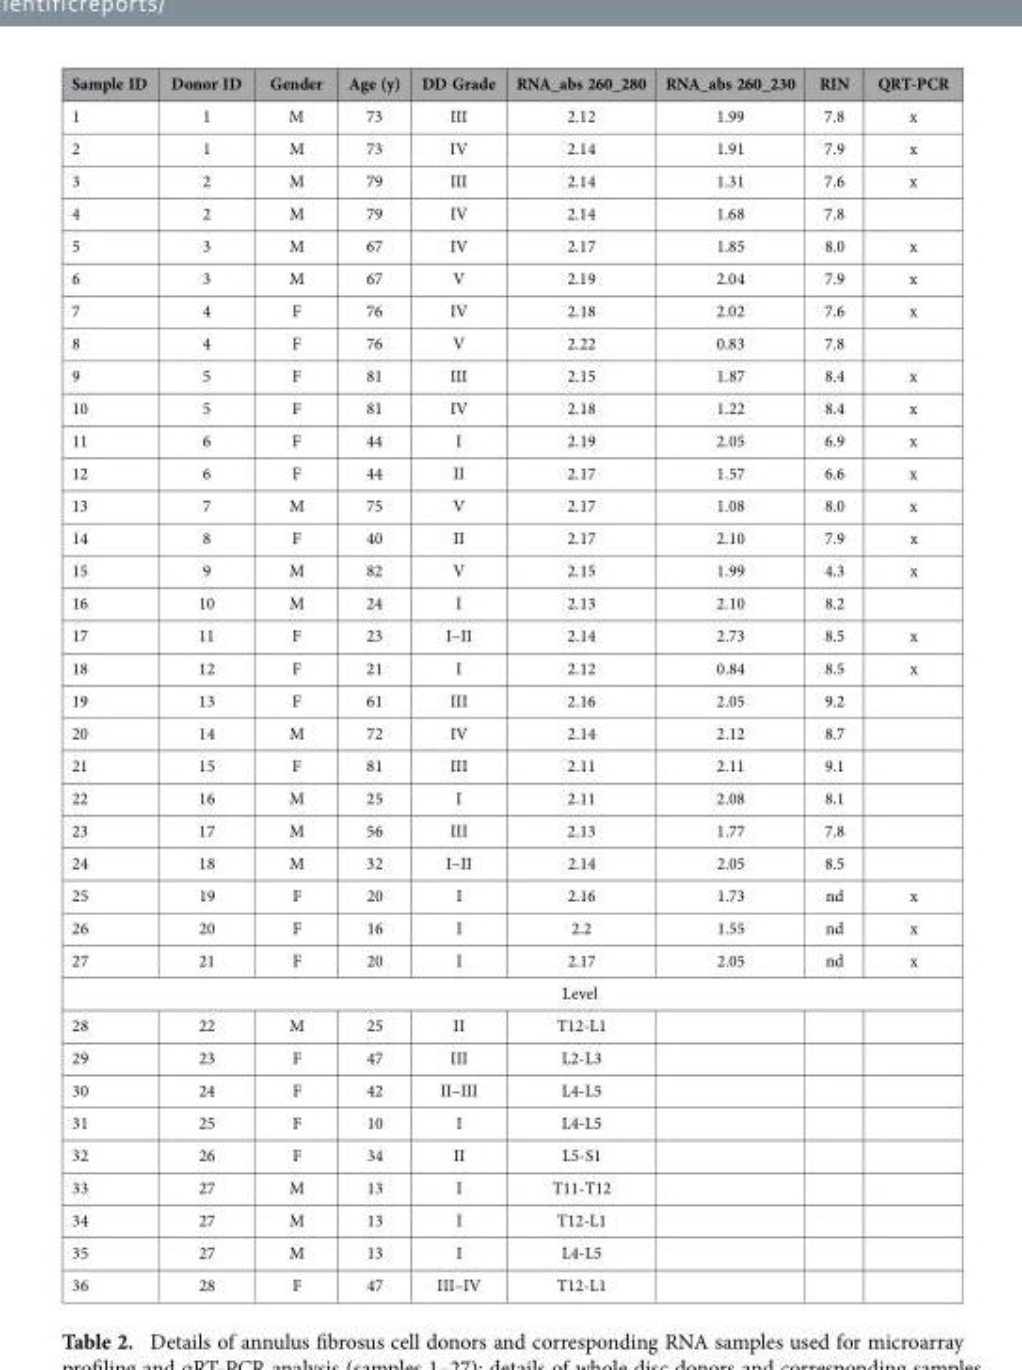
<table><thead><tr><td>Sample ID</td><td>Donor ID</td><td>Gender</td><td>Age (y)</td><td>DD Grade</td><td>RNA_abs 260_280</td><td>RNA_abs 260_230</td><td>RIN</td><td>QRT-PCR</td></tr></thead><tbody><tr><td>1</td><td>1</td><td>M</td><td>73</td><td>III</td><td>2.12</td><td>1.99</td><td>7.8</td><td>x</td></tr><tr><td>2</td><td>1</td><td>M</td><td>73</td><td>IV</td><td>2.14</td><td>1.91</td><td>7.9</td><td>x</td></tr><tr><td>3</td><td>2</td><td>M</td><td>79</td><td>III</td><td>2.14</td><td>1.31</td><td>7.6</td><td>x</td></tr><tr><td>4</td><td>2</td><td>M</td><td>79</td><td>IV</td><td>2.14</td><td>1.68</td><td>7.8</td><td></td></tr><tr><td>5</td><td>3</td><td>M</td><td>67</td><td>IV</td><td>2.17</td><td>1.85</td><td>8.0</td><td>x</td></tr><tr><td>6</td><td>3</td><td>M</td><td>67</td><td>V</td><td>2.19</td><td>2.04</td><td>7.9</td><td>x</td></tr><tr><td>7</td><td>4</td><td>F</td><td>76</td><td>IV</td><td>2.18</td><td>2.02</td><td>7.6</td><td>x</td></tr><tr><td>8</td><td>4</td><td>F</td><td>76</td><td>V</td><td>2.22</td><td>0.83</td><td>7.8</td><td></td></tr><tr><td>9</td><td>5</td><td>F</td><td>81</td><td>III</td><td>2.15</td><td>1.87</td><td>8.4</td><td>x</td></tr><tr><td>10</td><td>5</td><td>F</td><td>81</td><td>IV</td><td>2.18</td><td>1.22</td><td>8.4</td><td>x</td></tr><tr><td>11</td><td>6</td><td>F</td><td>44</td><td>I</td><td>2.19</td><td>2.05</td><td>6.9</td><td>x</td></tr><tr><td>12</td><td>6</td><td>F</td><td>44</td><td>II</td><td>2.17</td><td>1.57</td><td>6.6</td><td>x</td></tr><tr><td>13</td><td>7</td><td>M</td><td>75</td><td>V</td><td>2.17</td><td>1.08</td><td>8.0</td><td>x</td></tr><tr><td>14</td><td>8</td><td>F</td><td>40</td><td>II</td><td>2.17</td><td>2.10</td><td>7.9</td><td>x</td></tr><tr><td>15</td><td>9</td><td>M</td><td>82</td><td>V</td><td>2.15</td><td>1.99</td><td>4.3</td><td>x</td></tr><tr><td>16</td><td>10</td><td>M</td><td>24</td><td>I</td><td>2.13</td><td>2.10</td><td>8.2</td><td></td></tr><tr><td>17</td><td>11</td><td>F</td><td>23</td><td>I–II</td><td>2.14</td><td>2.73</td><td>8.5</td><td>x</td></tr><tr><td>18</td><td>12</td><td>F</td><td>21</td><td>I</td><td>2.12</td><td>0.84</td><td>8.5</td><td>x</td></tr><tr><td>19</td><td>13</td><td>F</td><td>61</td><td>III</td><td>2.16</td><td>2.05</td><td>9.2</td><td></td></tr><tr><td>20</td><td>14</td><td>M</td><td>72</td><td>IV</td><td>2.14</td><td>2.12</td><td>8.7</td><td></td></tr><tr><td>21</td><td>15</td><td>F</td><td>81</td><td>III</td><td>2.11</td><td>2.11</td><td>9.1</td><td></td></tr><tr><td>22</td><td>16</td><td>M</td><td>25</td><td>I</td><td>2.11</td><td>2.08</td><td>8.1</td><td></td></tr><tr><td>23</td><td>17</td><td>M</td><td>56</td><td>III</td><td>2.13</td><td>1.77</td><td>7.8</td><td></td></tr><tr><td>24</td><td>18</td><td>M</td><td>32</td><td>I–II</td><td>2.14</td><td>2.05</td><td>8.5</td><td></td></tr><tr><td>25</td><td>19</td><td>F</td><td>20</td><td>I</td><td>2.16</td><td>1.73</td><td>nd</td><td>x</td></tr><tr><td>26</td><td>20</td><td>F</td><td>16</td><td>I</td><td>2.2</td><td>1.55</td><td>nd</td><td>x</td></tr><tr><td>27</td><td>21</td><td>F</td><td>20</td><td>I</td><td>2.17</td><td>2.05</td><td>nd</td><td>x</td></tr><tr><td colspan="9">Level</td></tr><tr><td>28</td><td>22</td><td>M</td><td>25</td><td>II</td><td>T12-L1</td><td></td><td></td><td></td></tr><tr><td>29</td><td>23</td><td>F</td><td>47</td><td>III</td><td>L2-L3</td><td></td><td></td><td></td></tr><tr><td>30</td><td>24</td><td>F</td><td>42</td><td>II–III</td><td>L4-L5</td><td></td><td></td><td></td></tr><tr><td>31</td><td>25</td><td>F</td><td>10</td><td>I</td><td>L4-L5</td><td></td><td></td><td></td></tr><tr><td>32</td><td>26</td><td>F</td><td>34</td><td>II</td><td>L5-S1</td><td></td><td></td><td></td></tr><tr><td>33</td><td>27</td><td>M</td><td>13</td><td>I</td><td>T11-T12</td><td></td><td></td><td></td></tr><tr><td>34</td><td>27</td><td>M</td><td>13</td><td>I</td><td>T12-L1</td><td></td><td></td><td></td></tr><tr><td>35</td><td>27</td><td>M</td><td>13</td><td>I</td><td>L4-L5</td><td></td><td></td><td></td></tr><tr><td>36</td><td>28</td><td>F</td><td>47</td><td>III–IV</td><td>T12-L1</td><td></td><td></td><td></td></tr></tbody></table>